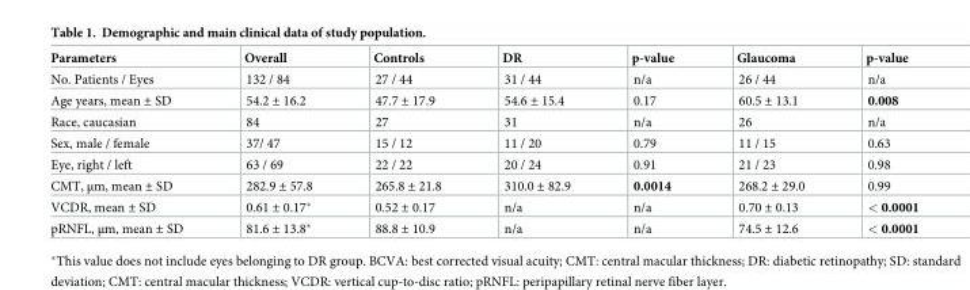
<table><thead><tr><td>Parameters</td><td>Overall</td><td>Controls</td><td>DR</td><td>p-value</td><td>Glaucoma</td><td>p-value</td></tr></thead><tbody><tr><td>No. Patients / Eyes</td><td>132 / 84</td><td>27 / 44</td><td>31 / 44</td><td>n/a</td><td>26 / 44</td><td>n/a</td></tr><tr><td>Age years, mean ± SD</td><td>54.2 ± 16.2</td><td>47.7 ± 17.9</td><td>54.6 ± 15.4</td><td>0.17</td><td>60.5 ± 13.1</td><td>0.008</td></tr><tr><td>Race, caucasian</td><td>84</td><td>27</td><td>31</td><td>n/a</td><td>26</td><td>n/a</td></tr><tr><td>Sex, male / female</td><td>37/ 47</td><td>15 / 12</td><td>11 / 20</td><td>0.79</td><td>11 / 15</td><td>0.63</td></tr><tr><td>Eye, right / left</td><td>63 / 69</td><td>22 / 22</td><td>20 / 24</td><td>0.91</td><td>21 / 23</td><td>0.98</td></tr><tr><td>CMT, μm, mean ± SD</td><td>282.9 ± 57.8</td><td>265.8 ± 21.8</td><td>310.0 ± 82.9</td><td>0.0014</td><td>268.2 ± 29.0</td><td>0.99</td></tr><tr><td>VCDR, mean ± SD</td><td>0.61 ± 0.17*</td><td>0.52 ± 0.17</td><td>n/a</td><td>n/a</td><td>0.70 ± 0.13</td><td>&lt; 0.0001</td></tr><tr><td>pRNFL, μm, mean ± SD</td><td>81.6 ± 13.8*</td><td>88.8 ± 10.9</td><td>n/a</td><td>n/a</td><td>74.5 ± 12.6</td><td>&lt; 0.0001</td></tr></tbody></table>